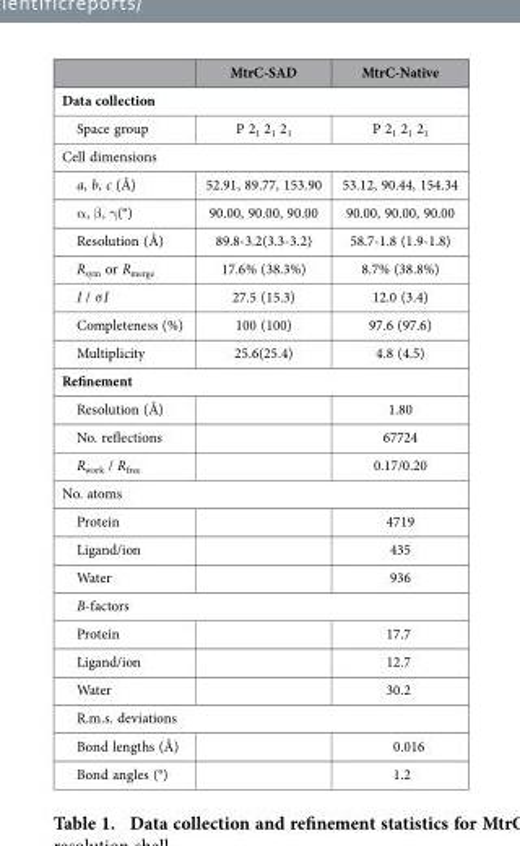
<table><thead><tr><td></td><td>MtrC-SAD</td><td>MtrC-Native</td></tr></thead><tbody><tr><td colspan="3">Data collection</td></tr><tr><td>Space group</td><td>P 2<sub>1</sub> 2<sub>1</sub> 2<sub>1</sub></td><td>P 2<sub>1</sub> 2<sub>1</sub> 2<sub>1</sub></td></tr><tr><td colspan="3">Cell dimensions</td></tr><tr><td>a, b, c (Å)</td><td>52.91, 89.77, 153.90</td><td>53.12, 90.44, 154.34</td></tr><tr><td>α , β , γ (°)</td><td>90.00, 90.00, 90.00</td><td>90.00, 90.00, 90.00</td></tr><tr><td>Resolution (Å)</td><td>89.8-3.2(3.3-3.2)</td><td>58.7-1.8 (1.9-1.8)</td></tr><tr><td>R<sub>sym</sub> or R<sub>merge</sub></td><td>17.6% (38.3%)</td><td>8.7% (38.8%)</td></tr><tr><td>I / σ I</td><td>27.5 (15.3)</td><td>12.0 (3.4)</td></tr><tr><td>Completeness (%)</td><td>100 (100)</td><td>97.6 (97.6)</td></tr><tr><td>Multiplicity</td><td>25.6(25.4)</td><td>4.8 (4.5)</td></tr><tr><td colspan="3">Refinement</td></tr><tr><td>Resolution (Å)</td><td></td><td>1.80</td></tr><tr><td>No. reflections</td><td></td><td>67724</td></tr><tr><td>R<sub>work</sub> / R<sub>free</sub></td><td></td><td>0.17/0.20</td></tr><tr><td colspan="3">No. atoms</td></tr><tr><td>Protein</td><td></td><td>4719</td></tr><tr><td>Ligand/ion</td><td></td><td>435</td></tr><tr><td>Water</td><td></td><td>936</td></tr><tr><td colspan="3">B-factors</td></tr><tr><td>Protein</td><td></td><td>17.7</td></tr><tr><td>Ligand/ion</td><td></td><td>12.7</td></tr><tr><td>Water</td><td></td><td>30.2</td></tr><tr><td colspan="3">R.m.s. deviations</td></tr><tr><td>Bond lengths (Å)</td><td></td><td>0.016</td></tr><tr><td>Bond angles (°)</td><td></td><td>1.2</td></tr></tbody></table>